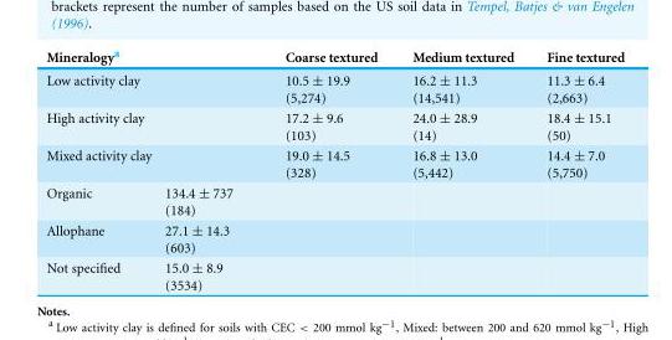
<table><thead><tr><td>Mineralogy<sup>a</sup></td><td></td><td>Coarse textured</td><td>Medium textured</td><td>Fine textured</td></tr></thead><tbody><tr><td>Low activity clay</td><td></td><td>10.5 ± 19.9 (5,274)</td><td>16.2 ± 11.3 (14,541)</td><td>11.3 ± 6.4 (2,663)</td></tr><tr><td>High activity clay</td><td></td><td>17.2 ± 9.6 (103)</td><td>24.0 ± 28.9 (14)</td><td>18.4 ± 15.1 (50)</td></tr><tr><td>Mixed activity clay</td><td></td><td>19.0 ± 14.5 (328)</td><td>16.8 ± 13.0 (5,442)</td><td>14.4 ± 7.0 (5,750)</td></tr><tr><td>Organic</td><td>134.4 ± 737 (184)</td><td></td><td></td><td></td></tr><tr><td>Allophane</td><td>27.1 ± 14.3 (603)</td><td></td><td></td><td></td></tr><tr><td>Not specified</td><td>15.0 ± 8.9 (3534)</td><td></td><td></td><td></td></tr></tbody></table>